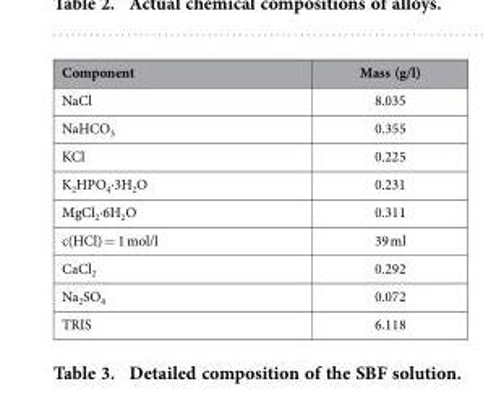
<table><thead><tr><td>Component</td><td>Mass (g/l)</td></tr></thead><tbody><tr><td>NaCl</td><td>8.035</td></tr><tr><td>NaHCO<sub>3</sub></td><td>0.355</td></tr><tr><td>KCl</td><td>0.225</td></tr><tr><td>K<sub>2</sub>HPO<sub>4</sub>·3H<sub>2</sub>O</td><td>0.231</td></tr><tr><td>MgCl<sub>2</sub>·6H<sub>2</sub>O</td><td>0.311</td></tr><tr><td>c(HCl) = 1 mol/l</td><td>39 ml</td></tr><tr><td>CaCl<sub>2</sub></td><td>0.292</td></tr><tr><td>Na<sub>2</sub>SO<sub>4</sub></td><td>0.072</td></tr><tr><td>TRIS</td><td>6.118</td></tr></tbody></table>